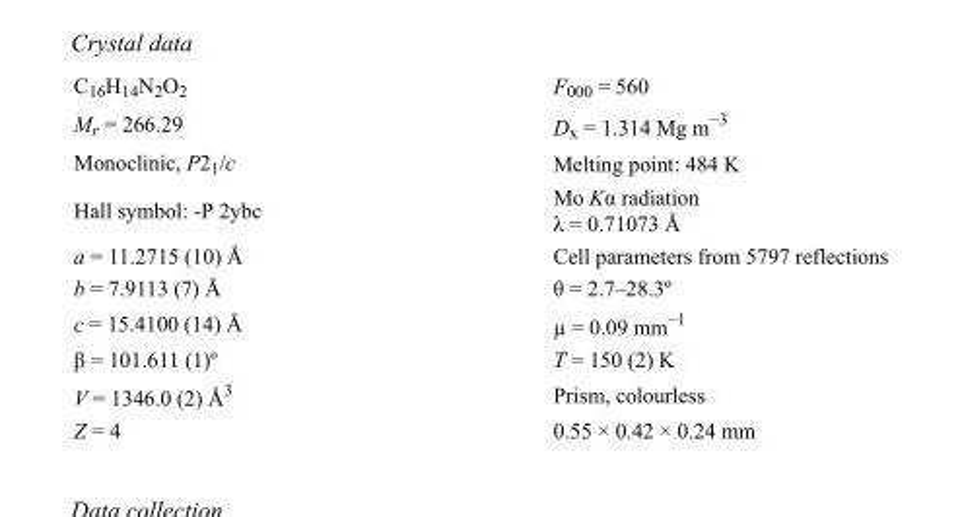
<table><tbody><tr><td>C<sub>16</sub>H<sub>14</sub>N<sub>2</sub>O<sub>2</sub></td><td>F<sub>000</sub> = 560</td></tr><tr><td>M<sub>r</sub> = 266.29</td><td>D<sub>x</sub> = 1.314 Mg m<sup>−3</sup></td></tr><tr><td>Monoclinic, P2<sub>1</sub>/c</td><td>Melting point: 484 K</td></tr><tr><td>Hall symbol: -P 2ybc</td><td>Mo Kα radiation λ = 0.71073 Å</td></tr><tr><td>a = 11.2715 (10) Å</td><td>Cell parameters from 5797 reflections</td></tr><tr><td>b = 7.9113 (7) Å</td><td>θ = 2.7–28.3º</td></tr><tr><td>c = 15.4100 (14) Å</td><td>µ = 0.09 mm<sup>−1</sup></td></tr><tr><td>β = 101.611 (1)º</td><td>T = 150 (2) K</td></tr><tr><td>V = 1346.0 (2) Å<sup>3</sup></td><td>Prism, colourless</td></tr><tr><td>Z = 4</td><td>0.55 × 0.42 × 0.24 mm</td></tr></tbody></table>